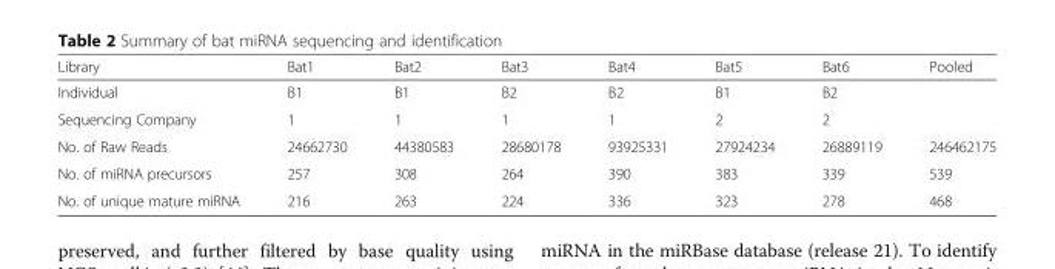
<table><thead><tr><td>Library</td><td>Bat1</td><td>Bat2</td><td>Bat3</td><td>Bat4</td><td>Bat5</td><td>Bat6</td><td>Pooled</td></tr></thead><tbody><tr><td>Individual</td><td>B1</td><td>B1</td><td>B2</td><td>B2</td><td>B1</td><td>B2</td><td></td></tr><tr><td>Sequencing Company</td><td>1</td><td>1</td><td>1</td><td>1</td><td>2</td><td>2</td><td></td></tr><tr><td>No. of Raw Reads</td><td>24662730</td><td>44380583</td><td>28680178</td><td>93925331</td><td>27924234</td><td>26889119</td><td>246462175</td></tr><tr><td>No. of miRNA precursors</td><td>257</td><td>308</td><td>264</td><td>390</td><td>383</td><td>339</td><td>539</td></tr><tr><td>No. of unique mature miRNA</td><td>216</td><td>263</td><td>224</td><td>336</td><td>323</td><td>278</td><td>468</td></tr></tbody></table>